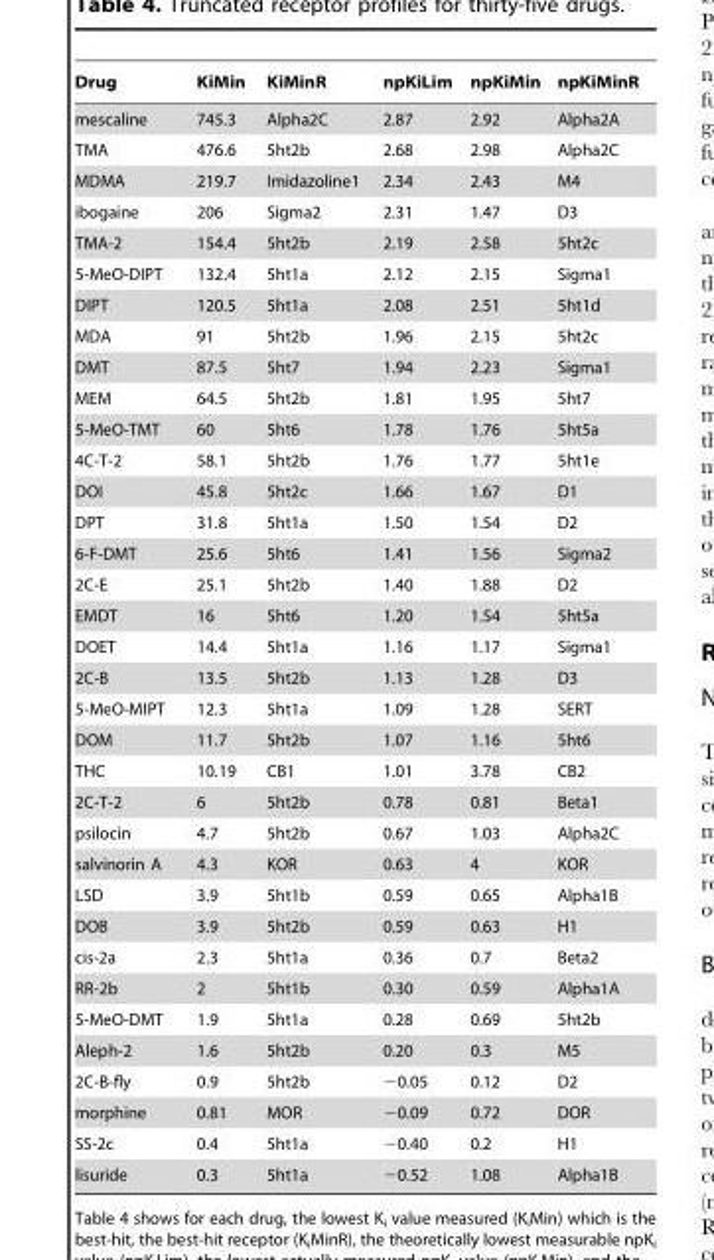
<table><thead><tr><td>Drug</td><td>KiMin</td><td>KiMinR</td><td>npKiLim</td><td>npKiMin</td><td>npKiMinR</td></tr></thead><tbody><tr><td>mescaline</td><td>745.3</td><td>Alpha2C</td><td>2.87</td><td>2.92</td><td>Alpha2A</td></tr><tr><td>TMA</td><td>476.6</td><td>5ht2b</td><td>2.68</td><td>2.98</td><td>Alpha2C</td></tr><tr><td>MDMA</td><td>219.7</td><td>Imidazoline1</td><td>2.34</td><td>2.43</td><td>M4</td></tr><tr><td>ibogaine</td><td>206</td><td>Sigma2</td><td>2.31</td><td>1.47</td><td>D3</td></tr><tr><td>TMA-2</td><td>154.4</td><td>5ht2b</td><td>2.19</td><td>2.58</td><td>5ht2c</td></tr><tr><td>5-MeO-DIPT</td><td>132.4</td><td>5ht1a</td><td>2.12</td><td>2.15</td><td>Sigma1</td></tr><tr><td>DIPT</td><td>120.5</td><td>5ht1a</td><td>2.08</td><td>2.51</td><td>5ht1d</td></tr><tr><td>MDA</td><td>91</td><td>5ht2b</td><td>1.96</td><td>2.15</td><td>5ht2c</td></tr><tr><td>DMT</td><td>87.5</td><td>5ht7</td><td>1.94</td><td>2.23</td><td>Sigma1</td></tr><tr><td>MEM</td><td>64.5</td><td>5ht2b</td><td>1.81</td><td>1.95</td><td>5ht7</td></tr><tr><td>5-MeO-TMT</td><td>60</td><td>5ht6</td><td>1.78</td><td>1.76</td><td>5ht5a</td></tr><tr><td>4C-T-2</td><td>58.1</td><td>5ht2b</td><td>1.76</td><td>1.77</td><td>5ht1e</td></tr><tr><td>DOI</td><td>45.8</td><td>5ht2c</td><td>1.66</td><td>1.67</td><td>D1</td></tr><tr><td>DPT</td><td>31.8</td><td>5ht1a</td><td>1.50</td><td>1.54</td><td>D2</td></tr><tr><td>6-F-DMT</td><td>25.6</td><td>5ht6</td><td>1.41</td><td>1.56</td><td>Sigma2</td></tr><tr><td>2C-E</td><td>25.1</td><td>5ht2b</td><td>1.40</td><td>1.88</td><td>D2</td></tr><tr><td>EMDT</td><td>16</td><td>5ht6</td><td>1.20</td><td>1.54</td><td>5ht5a</td></tr><tr><td>DOET</td><td>14.4</td><td>5ht1a</td><td>1.16</td><td>1.17</td><td>Sigma1</td></tr><tr><td>2C-B</td><td>13.5</td><td>5ht2b</td><td>1.13</td><td>1.28</td><td>D3</td></tr><tr><td>5-MeO-MIPT</td><td>12.3</td><td>5ht1a</td><td>1.09</td><td>1.28</td><td>SERT</td></tr><tr><td>DOM</td><td>11.7</td><td>5ht2b</td><td>1.07</td><td>1.16</td><td>5ht6</td></tr><tr><td>THC</td><td>10.19</td><td>CB1</td><td>1.01</td><td>3.78</td><td>CB2</td></tr><tr><td>2C-T-2</td><td>6</td><td>5ht2b</td><td>0.78</td><td>0.81</td><td>Beta1</td></tr><tr><td>psilocin</td><td>4.7</td><td>5ht2b</td><td>0.67</td><td>1.03</td><td>Alpha2C</td></tr><tr><td>salvinorin A</td><td>4.3</td><td>KOR</td><td>0.63</td><td>4</td><td>KOR</td></tr><tr><td>LSD</td><td>3.9</td><td>5ht1b</td><td>0.59</td><td>0.65</td><td>Alpha1B</td></tr><tr><td>DOB</td><td>3.9</td><td>5ht2b</td><td>0.59</td><td>0.63</td><td>H1</td></tr><tr><td>cis-2a</td><td>2.3</td><td>5ht1a</td><td>0.36</td><td>0.7</td><td>Beta2</td></tr><tr><td>RR-2b</td><td>2</td><td>5ht1b</td><td>0.30</td><td>0.59</td><td>Alpha1A</td></tr><tr><td>5-MeO-DMT</td><td>1.9</td><td>5ht1a</td><td>0.28</td><td>0.69</td><td>5ht2b</td></tr><tr><td>Aleph-2</td><td>1.6</td><td>5ht2b</td><td>0.20</td><td>0.3</td><td>M5</td></tr><tr><td>2C-B-fly</td><td>0.9</td><td>5ht2b</td><td>−0.05</td><td>0.12</td><td>D2</td></tr><tr><td>morphine</td><td>0.81</td><td>MOR</td><td>−0.09</td><td>0.72</td><td>DOR</td></tr><tr><td>SS-2c</td><td>0.4</td><td>5ht1a</td><td>−0.40</td><td>0.2</td><td>H1</td></tr><tr><td>lisuride</td><td>0.3</td><td>5ht1a</td><td>−0.52</td><td>1.08</td><td>Alpha1B</td></tr></tbody></table>